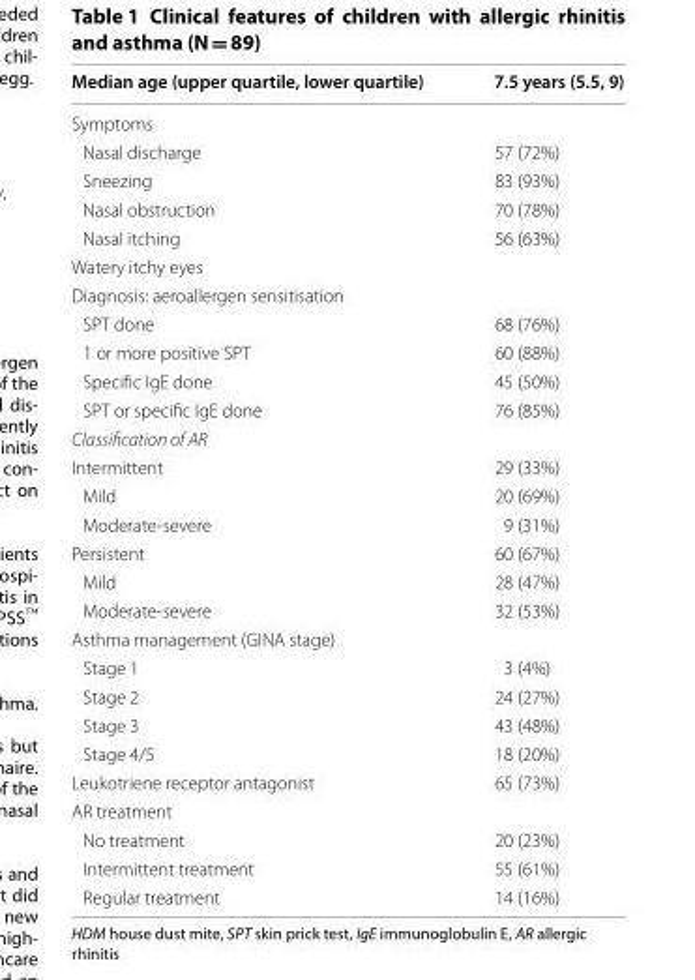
<table><thead><tr><td>Median age (upper quartile, lower quartile)</td><td>7.5 years (5.5, 9)</td></tr></thead><tbody><tr><td colspan="2">Symptoms</td></tr><tr><td>Nasal discharge</td><td>57 (72%)</td></tr><tr><td>Sneezing</td><td>83 (93%)</td></tr><tr><td>Nasal obstruction</td><td>70 (78%)</td></tr><tr><td>Nasal itching</td><td>56 (63%)</td></tr><tr><td colspan="2">Watery itchy eyes</td></tr><tr><td colspan="2">Diagnosis: aeroallergen sensitisation</td></tr><tr><td>SPT done</td><td>68 (76%)</td></tr><tr><td>1 or more positive SPT</td><td>60 (88%)</td></tr><tr><td>Specific IgE done</td><td>45 (50%)</td></tr><tr><td>SPT or specific IgE done</td><td>76 (85%)</td></tr><tr><td colspan="2">Classification of AR</td></tr><tr><td>Intermittent</td><td>29 (33%)</td></tr><tr><td>Mild</td><td>20 (69%)</td></tr><tr><td>Moderate-severe</td><td>9 (31%)</td></tr><tr><td>Persistent</td><td>60 (67%)</td></tr><tr><td>Mild</td><td>28 (47%)</td></tr><tr><td>Moderate-severe</td><td>32 (53%)</td></tr><tr><td colspan="2">Asthma management (GINA stage)</td></tr><tr><td>Stage 1</td><td>3 (4%)</td></tr><tr><td>Stage 2</td><td>24 (27%)</td></tr><tr><td>Stage 3</td><td>43 (48%)</td></tr><tr><td>Stage 4/5</td><td>18 (20%)</td></tr><tr><td>Leukotriene receptor antagonist</td><td>65 (73%)</td></tr><tr><td colspan="2">AR treatment</td></tr><tr><td>No treatment</td><td>20 (23%)</td></tr><tr><td>Intermittent treatment</td><td>55 (61%)</td></tr><tr><td>Regular treatment</td><td>14 (16%)</td></tr></tbody></table>